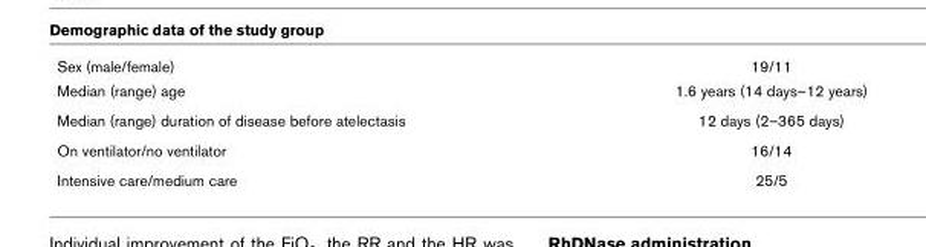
<table><tbody><tr><td>Sex (male/female)</td><td>19/11</td></tr><tr><td>Median (range) age</td><td>1.6 years (14 days–12 years)</td></tr><tr><td>Median (range) duration of disease before atelectasis</td><td>12 days (2–365 days)</td></tr><tr><td>On ventilator/no ventilator</td><td>16/14</td></tr><tr><td>Intensive care/medium care</td><td>25/5</td></tr></tbody></table>